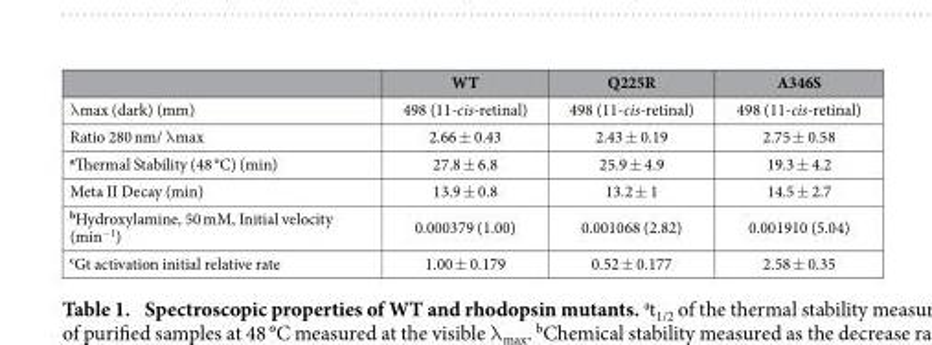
<table><thead><tr><td></td><td>WT</td><td>Q225R</td><td>A346S</td></tr></thead><tbody><tr><td>λ max (dark) (mm)</td><td>498 (11-cis-retinal)</td><td>498 (11-cis-retinal)</td><td>498 (11-cis-retinal)</td></tr><tr><td>Ratio 280 nm/ λ max</td><td>2.66 ± 0.43</td><td>2.43 ± 0.19</td><td>2.75 ± 0.58</td></tr><tr><td>aThermal Stability (48 °C) (min)</td><td>27.8 ± 6.8</td><td>25.9 ± 4.9</td><td>19.3 ± 4.2</td></tr><tr><td>Meta II Decay (min)</td><td>13.9 ± 0.8</td><td>13.2 ± 1</td><td>14.5 ± 2.7</td></tr><tr><td>bHydroxylamine, 50 m M, Initial velocity (min<sup>−1</sup>)</td><td>0.000379 (1.00)</td><td>0.001068 (2.82)</td><td>0.001910 (5.04)</td></tr><tr><td>cGt activation initial relative rate</td><td>1.00 ± 0.179</td><td>0.52 ± 0.177</td><td>2.58 ± 0.35</td></tr></tbody></table>